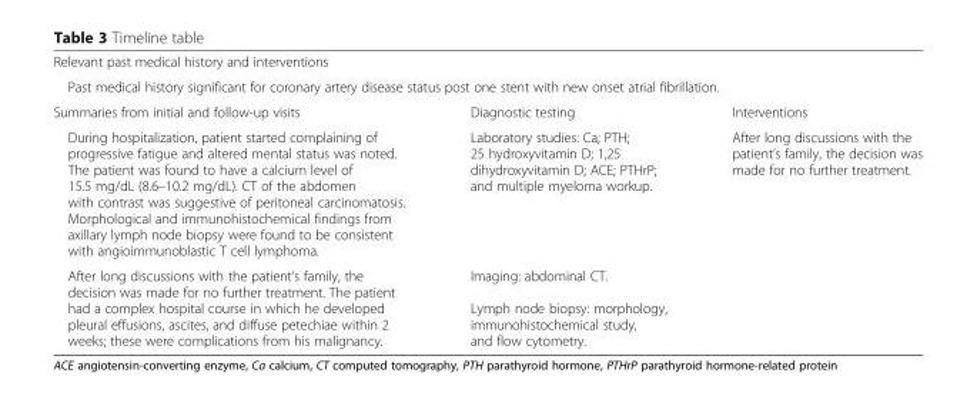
<table><tbody><tr><td colspan="3">Relevant past medical history and interventions</td></tr><tr><td colspan="3">Past medical history significant for coronary artery disease status post one stent with new onset atrial fibrillation.</td></tr><tr><td>Summaries from initial and follow-up visits</td><td>Diagnostic testing</td><td>Interventions</td></tr><tr><td>During hospitalization, patient started complaining of progressive fatigue and altered mental status was noted. The patient was found to have a calcium level of 15.5 mg/dL (8.6–10.2 mg/dL). CT of the abdomen with contrast was suggestive of peritoneal carcinomatosis. Morphological and immunohistochemical findings from axillary lymph node biopsy were found to be consistent with angioimmunoblastic T cell lymphoma.</td><td>Laboratory studies: Ca; PTH; 25 hydroxyvitamin D; 1,25 dihydroxyvitamin D; ACE; PTHrP; and multiple myeloma workup.</td><td>After long discussions with the patient’s family, the decision was made for no further treatment.</td></tr><tr><td>After long discussions with the patient’s family, the decision was made for no further treatment. The patient had a complex hospital course in which he developed pleural effusions, ascites, and diffuse petechiae within 2 weeks; these were complications from his malignancy.</td><td>Imaging: abdominal CT. Lymph node biopsy: morphology, immunohistochemical study, and flow cytometry.</td><td></td></tr></tbody></table>